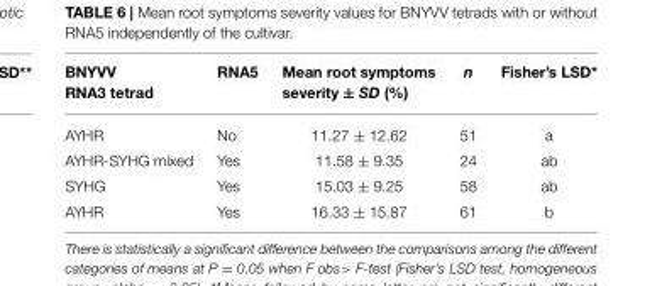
<table><thead><tr><td>BNYVV RNA3 tetrad</td><td>RNA5</td><td>Mean root symptoms severity ± SD (%)</td><td>n</td><td>Fisher’s LSD*</td></tr></thead><tbody><tr><td>AYHR</td><td>No</td><td>11.27 ± 12.62</td><td>51</td><td>a</td></tr><tr><td>AYHR-SYHG mixed</td><td>Yes</td><td>11.58 ± 9.35</td><td>24</td><td>ab</td></tr><tr><td>SYHG</td><td>Yes</td><td>15.03 ± 9.25</td><td>58</td><td>ab</td></tr><tr><td>AYHR</td><td>Yes</td><td>16.33 ± 15.87</td><td>61</td><td>b</td></tr></tbody></table>